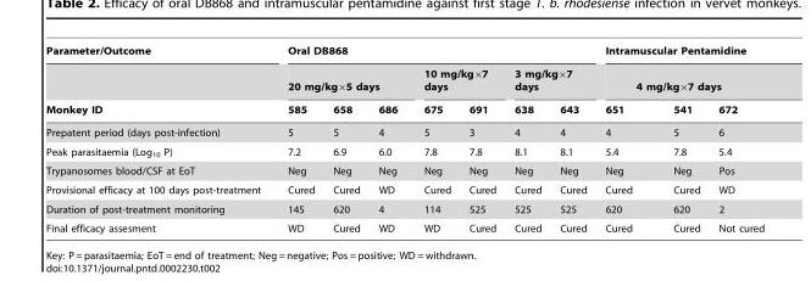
<table><thead><tr><td rowspan="3">Parameter/Outcome Monkey ID</td><td colspan="7">Oral DB868</td><td rowspan="2" colspan="3">Intramuscular Pentamidine 4 mg/kg×7 days</td></tr><tr><td colspan="3">20 mg/kg×5 days</td><td colspan="2">10 mg/kg×7 days</td><td colspan="2">3 mg/kg×7 days</td></tr><tr><td>585</td><td>658</td><td>686</td><td>675</td><td>691</td><td>638</td><td>643</td><td>651</td><td>541</td><td>672</td></tr></thead><tbody><tr><td>Prepatent period (days post-infection)</td><td>5</td><td>5</td><td>4</td><td>5</td><td>3</td><td>4</td><td>4</td><td>4</td><td>5</td><td>6</td></tr><tr><td>Peak parasitaemia (Log<sub>10</sub> P)</td><td>7.2</td><td>6.9</td><td>6.0</td><td>7.8</td><td>7.8</td><td>8.1</td><td>8.1</td><td>5.4</td><td>7.8</td><td>5.4</td></tr><tr><td>Trypanosomes blood/CSF at EoT</td><td>Neg</td><td>Neg</td><td>Neg</td><td>Neg</td><td>Neg</td><td>Neg</td><td>Neg</td><td>Neg</td><td>Neg</td><td>Pos</td></tr><tr><td>Provisional efficacy at 100 days post-treatment</td><td>Cured</td><td>Cured</td><td>WD</td><td>Cured</td><td>Cured</td><td>Cured</td><td>Cured</td><td>Cured</td><td>Cured</td><td>WD</td></tr><tr><td>Duration of post-treatment monitoring</td><td>145</td><td>620</td><td>4</td><td>114</td><td>525</td><td>525</td><td>525</td><td>620</td><td>620</td><td>2</td></tr><tr><td>Final efficacy assesment</td><td>WD</td><td>Cured</td><td>WD</td><td>WD</td><td>Cured</td><td>Cured</td><td>Cured</td><td>Cured</td><td>Cured</td><td>Not cured</td></tr></tbody></table>